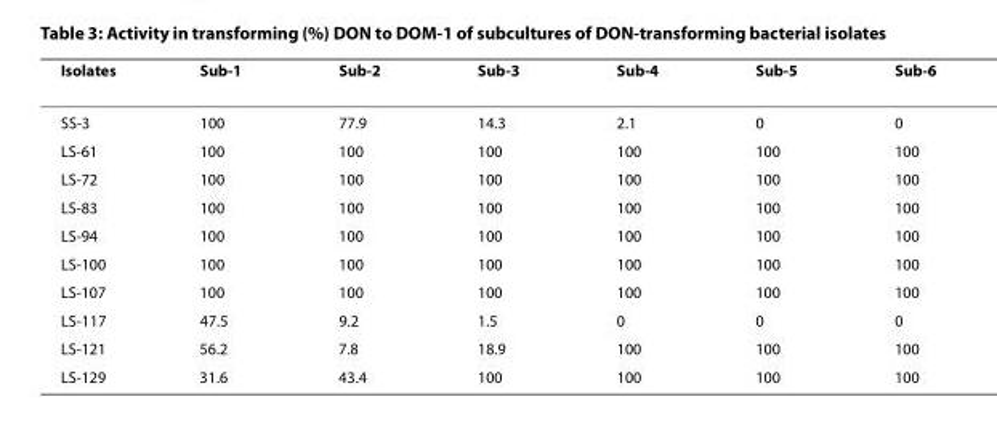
<table><thead><tr><td>Isolates</td><td>Sub-1</td><td>Sub-2</td><td>Sub-3</td><td>Sub-4</td><td>Sub-5</td><td>Sub-6</td></tr></thead><tbody><tr><td>SS-3</td><td>100</td><td>77.9</td><td>14.3</td><td>2.1</td><td>0</td><td>0</td></tr><tr><td>LS-61</td><td>100</td><td>100</td><td>100</td><td>100</td><td>100</td><td>100</td></tr><tr><td>LS-72</td><td>100</td><td>100</td><td>100</td><td>100</td><td>100</td><td>100</td></tr><tr><td>LS-83</td><td>100</td><td>100</td><td>100</td><td>100</td><td>100</td><td>100</td></tr><tr><td>LS-94</td><td>100</td><td>100</td><td>100</td><td>100</td><td>100</td><td>100</td></tr><tr><td>LS-100</td><td>100</td><td>100</td><td>100</td><td>100</td><td>100</td><td>100</td></tr><tr><td>LS-107</td><td>100</td><td>100</td><td>100</td><td>100</td><td>100</td><td>100</td></tr><tr><td>LS-117</td><td>47.5</td><td>9.2</td><td>1.5</td><td>0</td><td>0</td><td>0</td></tr><tr><td>LS-121</td><td>56.2</td><td>7.8</td><td>18.9</td><td>100</td><td>100</td><td>100</td></tr><tr><td>LS-129</td><td>31.6</td><td>43.4</td><td>100</td><td>100</td><td>100</td><td>100</td></tr></tbody></table>